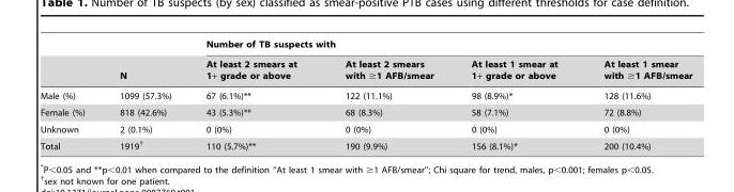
<table><thead><tr><td rowspan="2"></td><td rowspan="2">N</td><td colspan="4">Number of TB suspects with</td></tr><tr><td>At least 2 smears at 1+ grade or above</td><td>At least 2 smears with ≥1 AFB/smear</td><td>At least 1 smear at 1+ grade or above</td><td>At least 1 smear with ≥1 AFB/smear</td></tr></thead><tbody><tr><td>Male (%)</td><td>1099 (57.3%)</td><td>67 (6.1%)**</td><td>122 (11.1%)</td><td>98 (8.9%)*</td><td>128 (11.6%)</td></tr><tr><td>Female (%)</td><td>818 (42.6%)</td><td>43 (5.3%)**</td><td>68 (8.3%)</td><td>58 (7.1%)</td><td>72 (8.8%)</td></tr><tr><td>Unknown</td><td>2 (0.1%)</td><td>0 (0%)</td><td>0 (0%)</td><td>0 (0%)</td><td>0 (0%)</td></tr><tr><td>Total</td><td>1919†</td><td>110 (5.7%)**</td><td>190 (9.9%)</td><td>156 (8.1%)*</td><td>200 (10.4%)</td></tr></tbody></table>